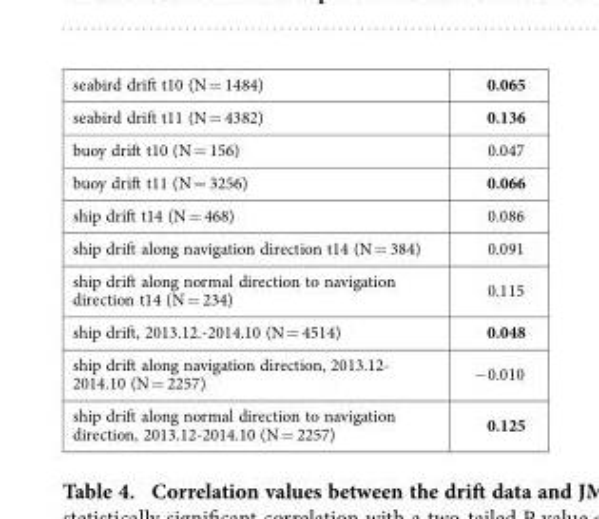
<table><tbody><tr><td>seabird drift t10 (N = 1484)</td><td>0.065</td></tr><tr><td>seabird drift t11 (N = 4382)</td><td>0.136</td></tr><tr><td>buoy drift t10 (N = 156)</td><td>0.047</td></tr><tr><td>buoy drift t11 (N = 3256)</td><td>0.066</td></tr><tr><td>ship drift t14 (N = 468)</td><td>0.086</td></tr><tr><td>ship drift along navigation direction t14 (N = 384)</td><td>0.091</td></tr><tr><td>ship drift along normal direction to navigation direction t14 (N = 234)</td><td>0.115</td></tr><tr><td>ship drift, 2013.12.-2014.10 (N = 4514)</td><td>0.048</td></tr><tr><td>ship drift along navigation direction, 2013.12- 2014.10 (N = 2257)</td><td>− 0.010</td></tr><tr><td>ship drift along normal direction to navigation direction, 2013.12-2014.10 (N = 2257)</td><td>0.125</td></tr></tbody></table>